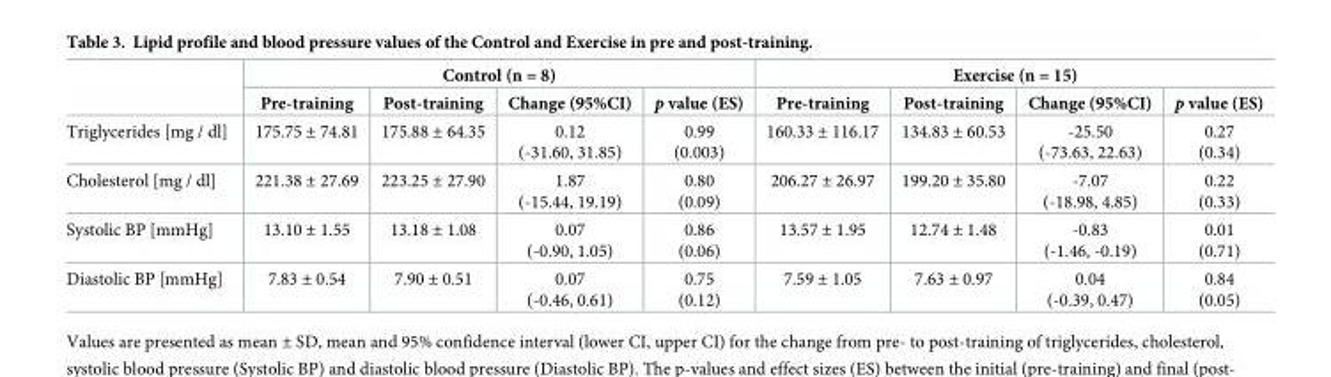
<table><thead><tr><td rowspan="2"></td><td colspan="4">Control (n = 8)</td><td colspan="4">Exercise (n = 15)</td></tr><tr><td>Pre-training</td><td>Post-training</td><td>Change (95%CI)</td><td>p value (ES)</td><td>Pre-training</td><td>Post-training</td><td>Change (95%CI)</td><td>p value (ES)</td></tr></thead><tbody><tr><td>Triglycerides [mg / dl]</td><td>175.75 ± 74.81</td><td>175.88 ± 64.35</td><td>0.12 (-31.60, 31.85)</td><td>0.99 (0.003)</td><td>160.33 ± 116.17</td><td>134.83 ± 60.53</td><td>-25.50 (-73.63, 22.63)</td><td>0.27 (0.34)</td></tr><tr><td>Cholesterol [mg / dl]</td><td>221.38 ± 27.69</td><td>223.25 ± 27.90</td><td>1.87 (-15.44, 19.19)</td><td>0.80 (0.09)</td><td>206.27 ± 26.97</td><td>199.20 ± 35.80</td><td>-7.07 (-18.98, 4.85)</td><td>0.22 (0.33)</td></tr><tr><td>Systolic BP [mmHg]</td><td>13.10 ± 1.55</td><td>13.18 ± 1.08</td><td>0.07 (-0.90, 1.05)</td><td>0.86 (0.06)</td><td>13.57 ± 1.95</td><td>12.74 ± 1.48</td><td>-0.83 (-1.46, -0.19)</td><td>0.01 (0.71)</td></tr><tr><td>Diastolic BP [mmHg]</td><td>7.83 ± 0.54</td><td>7.90 ± 0.51</td><td>0.07 (-0.46, 0.61)</td><td>0.75 (0.12)</td><td>7.59 ± 1.05</td><td>7.63 ± 0.97</td><td>0.04 (-0.39, 0.47)</td><td>0.84 (0.05)</td></tr></tbody></table>